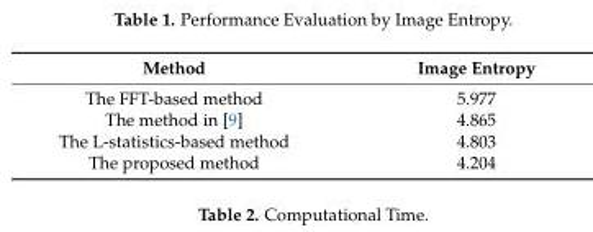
<table><thead><tr><td>Method</td><td>Image Entropy</td></tr></thead><tbody><tr><td>The FFT-based method</td><td>5.977</td></tr><tr><td>The method in [9]</td><td>4.865</td></tr><tr><td>The L-statistics-based method</td><td>4.803</td></tr><tr><td>The proposed method</td><td>4.204</td></tr></tbody></table>